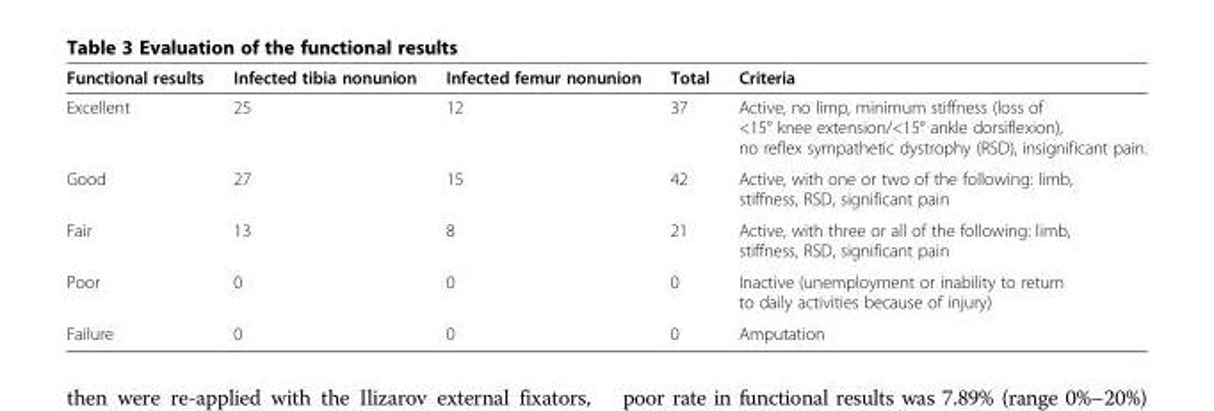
<table><thead><tr><td>Functional results</td><td>Infected tibia nonunion</td><td>Infected femur nonunion</td><td>Total</td><td>Criteria</td></tr></thead><tbody><tr><td>Excellent</td><td>25</td><td>12</td><td>37</td><td>Active, no limp, minimum stiffness (loss of &lt;15° knee extension/&lt;15° ankle dorsiflexion), no reflex sympathetic dystrophy (RSD), insignificant pain.</td></tr><tr><td>Good</td><td>27</td><td>15</td><td>42</td><td>Active, with one or two of the following: limb, stiffness, RSD, significant pain</td></tr><tr><td>Fair</td><td>13</td><td>8</td><td>21</td><td>Active, with three or all of the following: limb, stiffness, RSD, significant pain</td></tr><tr><td>Poor</td><td>0</td><td>0</td><td>0</td><td>Inactive (unemployment or inability to return to daily activities because of injury)</td></tr><tr><td>Failure</td><td>0</td><td>0</td><td>0</td><td>Amputation</td></tr></tbody></table>